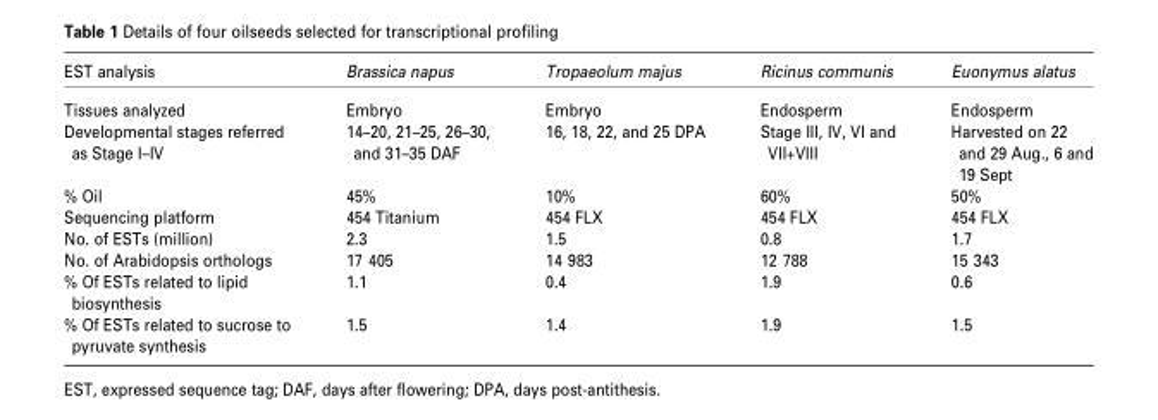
<table><thead><tr><td>EST analysis</td><td>Brassica napus</td><td>Tropaeolum majus</td><td>Ricinus communis</td><td>Euonymus alatus</td></tr></thead><tbody><tr><td>Tissues analyzed</td><td>Embryo</td><td>Embryo</td><td>Endosperm</td><td>Endosperm</td></tr><tr><td>Developmental stages referred as Stage I–IV</td><td>14–20, 21–25, 26–30, and 31–35 DAF</td><td>16, 18, 22, and 25 DPA</td><td>Stage III, IV, VI and VII+VIII</td><td>Harvested on 22 and 29 Aug., 6 and 19 Sept</td></tr><tr><td>% Oil</td><td>45%</td><td>10%</td><td>60%</td><td>50%</td></tr><tr><td>Sequencing platform</td><td>454 Titanium</td><td>454 FLX</td><td>454 FLX</td><td>454 FLX</td></tr><tr><td>No. of ESTs (million)</td><td>2.3</td><td>1.5</td><td>0.8</td><td>1.7</td></tr><tr><td>No. of Arabidopsis orthologs</td><td>17 405</td><td>14 983</td><td>12 788</td><td>15 343</td></tr><tr><td>% Of ESTs related to lipid biosynthesis</td><td>1.1</td><td>0.4</td><td>1.9</td><td>0.6</td></tr><tr><td>% Of ESTs related to sucrose to pyruvate synthesis</td><td>1.5</td><td>1.4</td><td>1.9</td><td>1.5</td></tr></tbody></table>